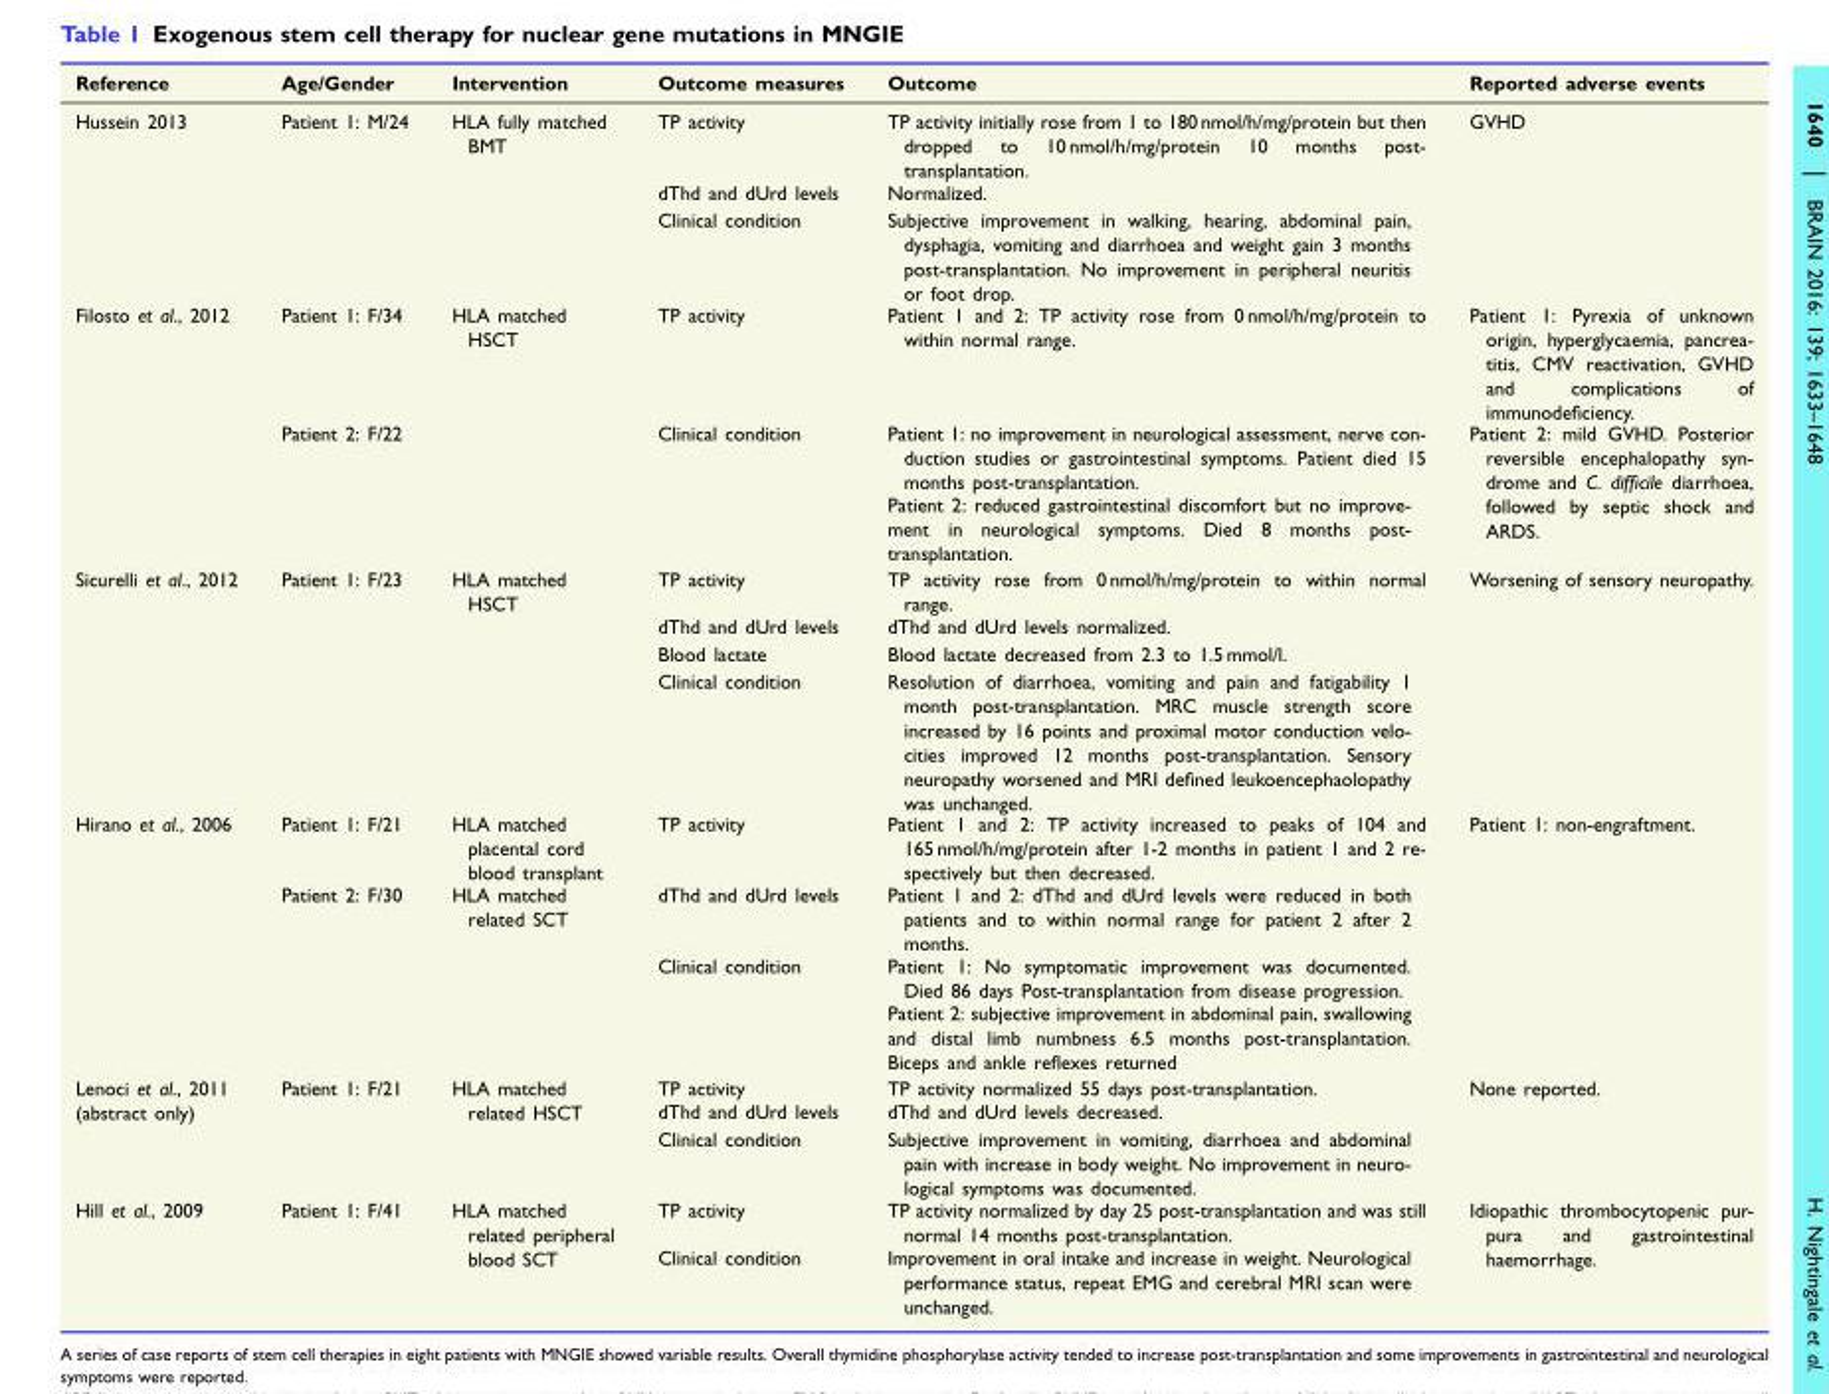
<table><thead><tr><td>Reference</td><td>Age/Gender</td><td>Intervention</td><td>Outcome measures</td><td>Outcome</td><td>Reported adverse events</td></tr></thead><tbody><tr><td rowspan="3">Hussein 2013</td><td rowspan="3">Patient 1: M/24</td><td rowspan="3">HLA fully matched BMT</td><td>TP activity</td><td>TP activity initially rose from 1 to 180 nmol/h/mg/protein but then dropped to 10 nmol/h/mg/protein 10 months post- transplantation.</td><td rowspan="3">GVHD</td></tr><tr><td>dThd and dUrd levels</td><td>Normalized.</td></tr><tr><td>Clinical condition</td><td>Subjective improvement in walking, hearing, abdominal pain, dysphagia, vomiting and diarrhoea and weight gain 3 months post-transplantation. No improvement in peripheral neuritis or foot drop.</td></tr><tr><td rowspan="3">Filosto et al., 2012</td><td>Patient 1: F/34</td><td rowspan="3">HLA matched HSCT</td><td>TP activity</td><td>Patient 1 and 2: TP activity rose from 0 nmol/h/mg/protein to within normal range.</td><td>Patient 1: Pyrexia of unknown origin, hyperglycaemia, pancrea- titis, CMV reactivation, GVHD and complications of immunodeficiency.</td></tr><tr><td rowspan="2">Patient 2: F/22</td><td rowspan="2">Clinical condition</td><td>Patient 1: no improvement in neurological assessment, nerve con- duction studies or gastrointestinal symptoms. Patient died 15 months post-transplantation.</td><td rowspan="2">Patient 2: mild GVHD. Posterior reversible encephalopathy syn- drome and C. difficile diarrhoea, followed by septic shock and ARDS.</td></tr><tr><td>Patient 2: reduced gastrointestinal discomfort but no improve- ment in neurological symptoms. Died 8 months post- transplantation.</td></tr><tr><td rowspan="4">Sicurelli et al., 2012</td><td rowspan="4">Patient 1: F/23</td><td rowspan="4">HLA matched HSCT</td><td>TP activity</td><td>TP activity rose from 0 nmol/h/mg/protein to within normal range.</td><td rowspan="4">Worsening of sensory neuropathy.</td></tr><tr><td>dThd and dUrd levels</td><td>dThd and dUrd levels normalized.</td></tr><tr><td>Blood lactate</td><td>Blood lactate decreased from 2.3 to 1.5 mmol/l.</td></tr><tr><td>Clinical condition</td><td>Resolution of diarrhoea, vomiting and pain and fatigability 1 month post-transplantation. MRC muscle strength score increased by 16 points and proximal motor conduction velo- cities improved 12 months post-transplantation. Sensory neuropathy worsened and MRI defined leukoencephaolopathy was unchanged.</td></tr><tr><td rowspan="4">Hirano et al., 2006</td><td>Patient 1: F/21</td><td>HLA matched placental cord blood transplant</td><td>TP activity</td><td>Patient 1 and 2: TP activity increased to peaks of 104 and 165 nmol/h/mg/protein after 1-2 months in patient 1 and 2 re- spectively but then decreased.</td><td rowspan="4">Patient 1: non-engraftment.</td></tr><tr><td rowspan="3">Patient 2: F/30</td><td rowspan="3">HLA matched related SCT</td><td>dThd and dUrd levels</td><td>Patient 1 and 2: dThd and dUrd levels were reduced in both patients and to within normal range for patient 2 after 2 months.</td></tr><tr><td rowspan="2">Clinical condition</td><td>Patient 1: No symptomatic improvement was documented. Died 86 days Post-transplantation from disease progression.</td></tr><tr><td>Patient 2: subjective improvement in abdominal pain, swallowing and distal limb numbness 6.5 months post-transplantation. Biceps and ankle reflexes returned</td></tr><tr><td rowspan="3">Lenoci et al., 2011 (abstract only)</td><td rowspan="3">Patient 1: F/21</td><td rowspan="3">HLA matched related HSCT</td><td>TP activity</td><td>TP activity normalized 55 days post-transplantation.</td><td rowspan="3">None reported.</td></tr><tr><td>dThd and dUrd levels</td><td>dThd and dUrd levels decreased.</td></tr><tr><td>Clinical condition</td><td>Subjective improvement in vomiting, diarrhoea and abdominal pain with increase in body weight. No improvement in neuro- logical symptoms was documented.</td></tr><tr><td rowspan="2">Hill et al., 2009</td><td rowspan="2">Patient 1: F/41</td><td rowspan="2">HLA matched related peripheral blood SCT</td><td>TP activity</td><td>TP activity normalized by day 25 post-transplantation and was still normal 14 months post-transplantation.</td><td rowspan="2">Idiopathic thrombocytopenic pur- pura and gastrointestinal haemorrhage.</td></tr><tr><td>Clinical condition</td><td>Improvement in oral intake and increase in weight. Neurological performance status, repeat EMG and cerebral MRI scan were unchanged.</td></tr></tbody></table>